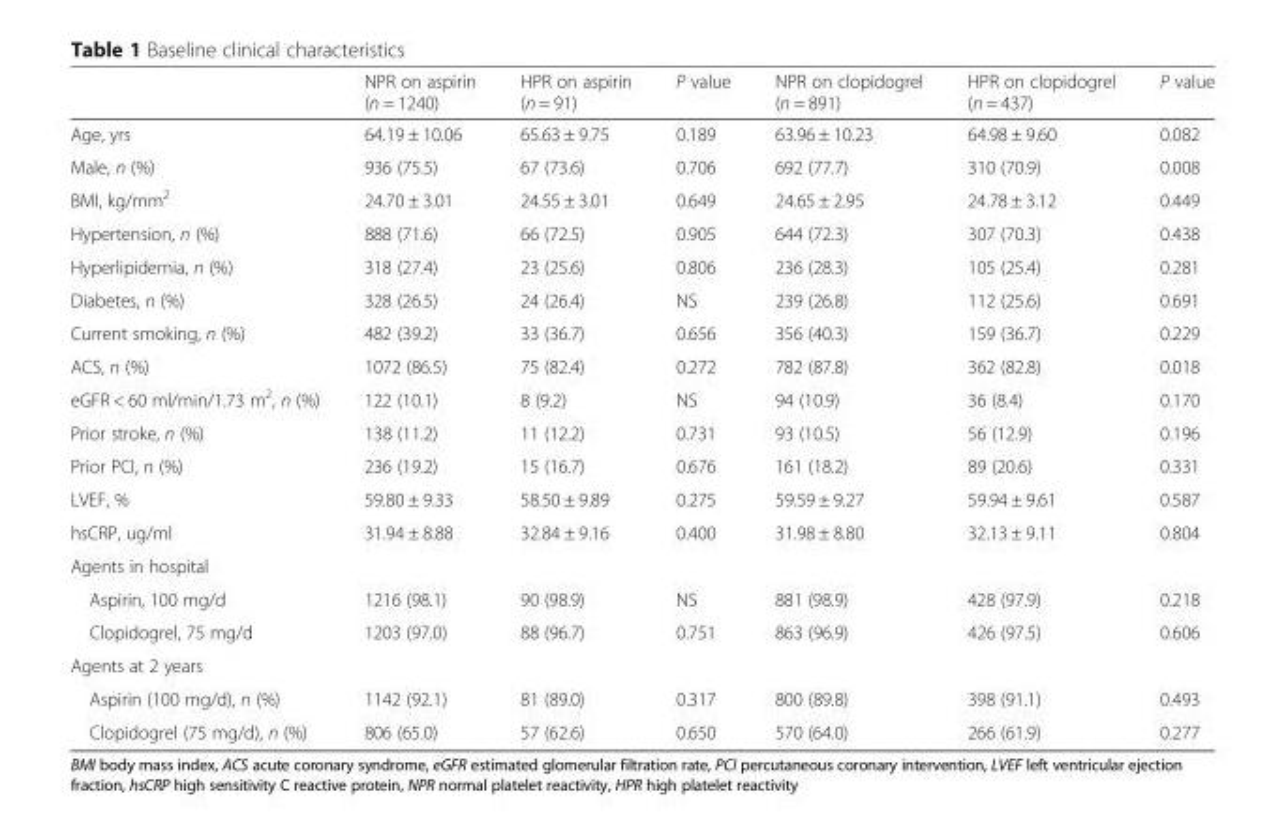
<table><thead><tr><td></td><td>NPR on aspirin (n = 1240)</td><td>HPR on aspirin (n = 91)</td><td>P value</td><td>NPR on clopidogrel (n = 891)</td><td>HPR on clopidogrel (n = 437)</td><td>P value</td></tr></thead><tbody><tr><td>Age, yrs</td><td>64.19 ± 10.06</td><td>65.63 ± 9.75</td><td>0.189</td><td>63.96 ± 10.23</td><td>64.98 ± 9.60</td><td>0.082</td></tr><tr><td>Male, n (%)</td><td>936 (75.5)</td><td>67 (73.6)</td><td>0.706</td><td>692 (77.7)</td><td>310 (70.9)</td><td>0.008</td></tr><tr><td>BMI, kg/mm<sup>2</sup></td><td>24.70 ± 3.01</td><td>24.55 ± 3.01</td><td>0.649</td><td>24.65 ± 2.95</td><td>24.78 ± 3.12</td><td>0.449</td></tr><tr><td>Hypertension, n (%)</td><td>888 (71.6)</td><td>66 (72.5)</td><td>0.905</td><td>644 (72.3)</td><td>307 (70.3)</td><td>0.438</td></tr><tr><td>Hyperlipidemia, n (%)</td><td>318 (27.4)</td><td>23 (25.6)</td><td>0.806</td><td>236 (28.3)</td><td>105 (25.4)</td><td>0.281</td></tr><tr><td>Diabetes, n (%)</td><td>328 (26.5)</td><td>24 (26.4)</td><td>NS</td><td>239 (26.8)</td><td>112 (25.6)</td><td>0.691</td></tr><tr><td>Current smoking, n (%)</td><td>482 (39.2)</td><td>33 (36.7)</td><td>0.656</td><td>356 (40.3)</td><td>159 (36.7)</td><td>0.229</td></tr><tr><td>ACS, n (%)</td><td>1072 (86.5)</td><td>75 (82.4)</td><td>0.272</td><td>782 (87.8)</td><td>362 (82.8)</td><td>0.018</td></tr><tr><td>eGFR &lt; 60 ml/min/1.73 m<sup>2</sup>, n (%)</td><td>122 (10.1)</td><td>8 (9.2)</td><td>NS</td><td>94 (10.9)</td><td>36 (8.4)</td><td>0.170</td></tr><tr><td>Prior stroke, n (%)</td><td>138 (11.2)</td><td>11 (12.2)</td><td>0.731</td><td>93 (10.5)</td><td>56 (12.9)</td><td>0.196</td></tr><tr><td>Prior PCI, n (%)</td><td>236 (19.2)</td><td>15 (16.7)</td><td>0.676</td><td>161 (18.2)</td><td>89 (20.6)</td><td>0.331</td></tr><tr><td>LVEF, %</td><td>59.80 ± 9.33</td><td>58.50 ± 9.89</td><td>0.275</td><td>59.59 ± 9.27</td><td>59.94 ± 9.61</td><td>0.587</td></tr><tr><td>hsCRP, ug/ml</td><td>31.94 ± 8.88</td><td>32.84 ± 9.16</td><td>0.400</td><td>31.98 ± 8.80</td><td>32.13 ± 9.11</td><td>0.804</td></tr><tr><td colspan="7">Agents in hospital</td></tr><tr><td>Aspirin, 100 mg/d</td><td>1216 (98.1)</td><td>90 (98.9)</td><td>NS</td><td>881 (98.9)</td><td>428 (97.9)</td><td>0.218</td></tr><tr><td>Clopidogrel, 75 mg/d</td><td>1203 (97.0)</td><td>88 (96.7)</td><td>0.751</td><td>863 (96.9)</td><td>426 (97.5)</td><td>0.606</td></tr><tr><td colspan="7">Agents at 2 years</td></tr><tr><td>Aspirin (100 mg/d), n (%)</td><td>1142 (92.1)</td><td>81 (89.0)</td><td>0.317</td><td>800 (89.8)</td><td>398 (91.1)</td><td>0.493</td></tr><tr><td>Clopidogrel (75 mg/d), n (%)</td><td>806 (65.0)</td><td>57 (62.6)</td><td>0.650</td><td>570 (64.0)</td><td>266 (61.9)</td><td>0.277</td></tr></tbody></table>